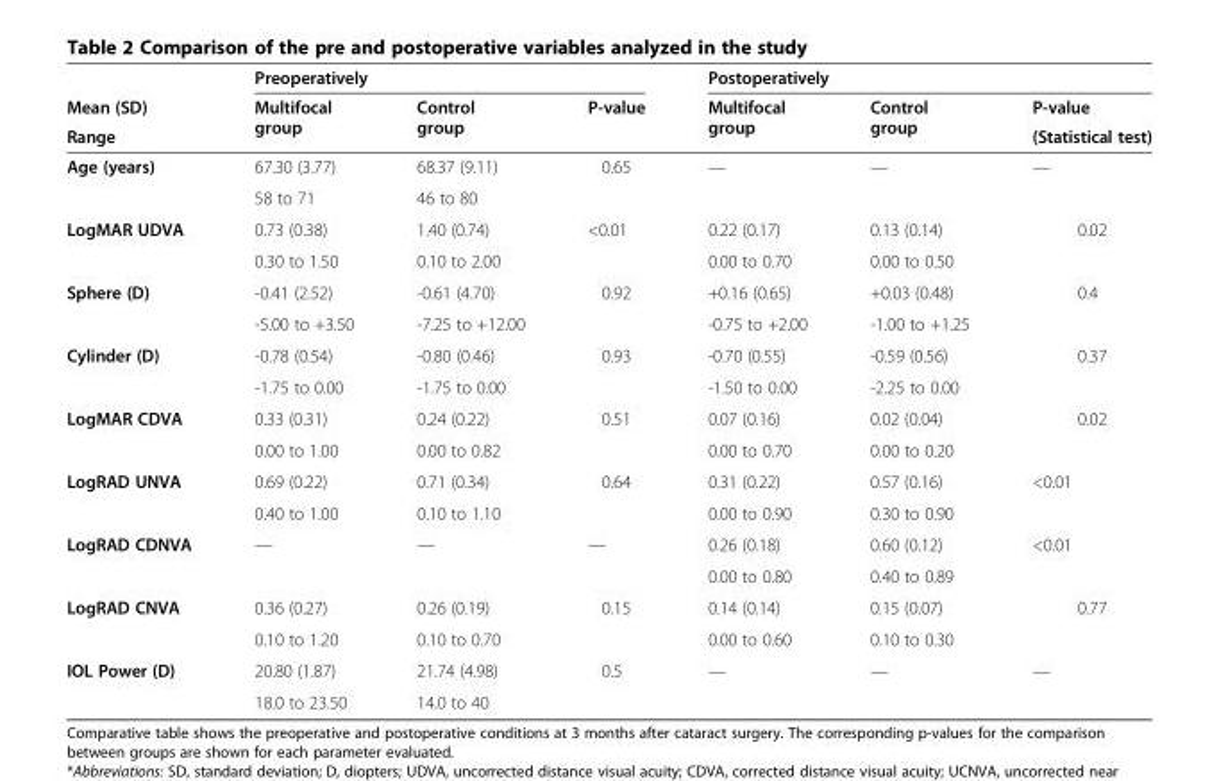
<table><thead><tr><td rowspan="3">Mean (SD) Range</td><td colspan="3">Preoperatively</td><td colspan="3">Postoperatively</td></tr><tr><td rowspan="2">Multifocal group</td><td rowspan="2">Control group</td><td rowspan="2">P-value</td><td rowspan="2">Multifocal group</td><td rowspan="2">Control group</td><td rowspan="2">P-value (Statistical test)</td></tr><tr></tr></thead><tbody><tr><td rowspan="2">Age (years)</td><td>67.30 (3.77)</td><td>68.37 (9.11)</td><td rowspan="2">0.65</td><td rowspan="2">—</td><td rowspan="2">—</td><td rowspan="2">—</td></tr><tr><td>58 to 71</td><td>46 to 80</td></tr><tr><td rowspan="2">LogMAR UDVA</td><td>0.73 (0.38)</td><td>1.40 (0.74)</td><td rowspan="2">&lt;0.01</td><td>0.22 (0.17)</td><td>0.13 (0.14)</td><td rowspan="2">0.02</td></tr><tr><td>0.30 to 1.50</td><td>0.10 to 2.00</td><td>0.00 to 0.70</td><td>0.00 to 0.50</td></tr><tr><td rowspan="2">Sphere (D)</td><td>-0.41 (2.52)</td><td>-0.61 (4.70)</td><td rowspan="2">0.92</td><td>+0.16 (0.65)</td><td>+0.03 (0.48)</td><td rowspan="2">0.4</td></tr><tr><td>-5.00 to +3.50</td><td>-7.25 to +12.00</td><td>-0.75 to +2.00</td><td>-1.00 to +1.25</td></tr><tr><td rowspan="2">Cylinder (D)</td><td>-0.78 (0.54)</td><td>-0.80 (0.46)</td><td rowspan="2">0.93</td><td>-0.70 (0.55)</td><td>-0.59 (0.56)</td><td rowspan="2">0.37</td></tr><tr><td>-1.75 to 0.00</td><td>-1.75 to 0.00</td><td>-1.50 to 0.00</td><td>-2.25 to 0.00</td></tr><tr><td rowspan="2">LogMAR CDVA</td><td>0.33 (0.31)</td><td>0.24 (0.22)</td><td rowspan="2">0.51</td><td>0.07 (0.16)</td><td>0.02 (0.04)</td><td rowspan="2">0.02</td></tr><tr><td>0.00 to 1.00</td><td>0.00 to 0.82</td><td>0.00 to 0.70</td><td>0.00 to 0.20</td></tr><tr><td rowspan="2">LogRAD UNVA</td><td>0.69 (0.22)</td><td>0.71 (0.34)</td><td rowspan="2">0.64</td><td>0.31 (0.22)</td><td>0.57 (0.16)</td><td rowspan="2">&lt;0.01</td></tr><tr><td>0.40 to 1.00</td><td>0.10 to 1.10</td><td>0.00 to 0.90</td><td>0.30 to 0.90</td></tr><tr><td rowspan="2">LogRAD CDNVA</td><td rowspan="2">—</td><td rowspan="2">—</td><td rowspan="2">—</td><td>0.26 (0.18)</td><td>0.60 (0.12)</td><td rowspan="2">&lt;0.01</td></tr><tr><td>0.00 to 0.80</td><td>0.40 to 0.89</td></tr><tr><td rowspan="2">LogRAD CNVA</td><td>0.36 (0.27)</td><td>0.26 (0.19)</td><td rowspan="2">0.15</td><td>0.14 (0.14)</td><td>0.15 (0.07)</td><td rowspan="2">0.77</td></tr><tr><td>0.10 to 1.20</td><td>0.10 to 0.70</td><td>0.00 to 0.60</td><td>0.10 to 0.30</td></tr><tr><td rowspan="2">IOL Power (D)</td><td>20.80 (1.87)</td><td>21.74 (4.98)</td><td rowspan="2">0.5</td><td rowspan="2">—</td><td rowspan="2">—</td><td rowspan="2">—</td></tr><tr><td>18.0 to 23.50</td><td>14.0 to 40</td></tr></tbody></table>